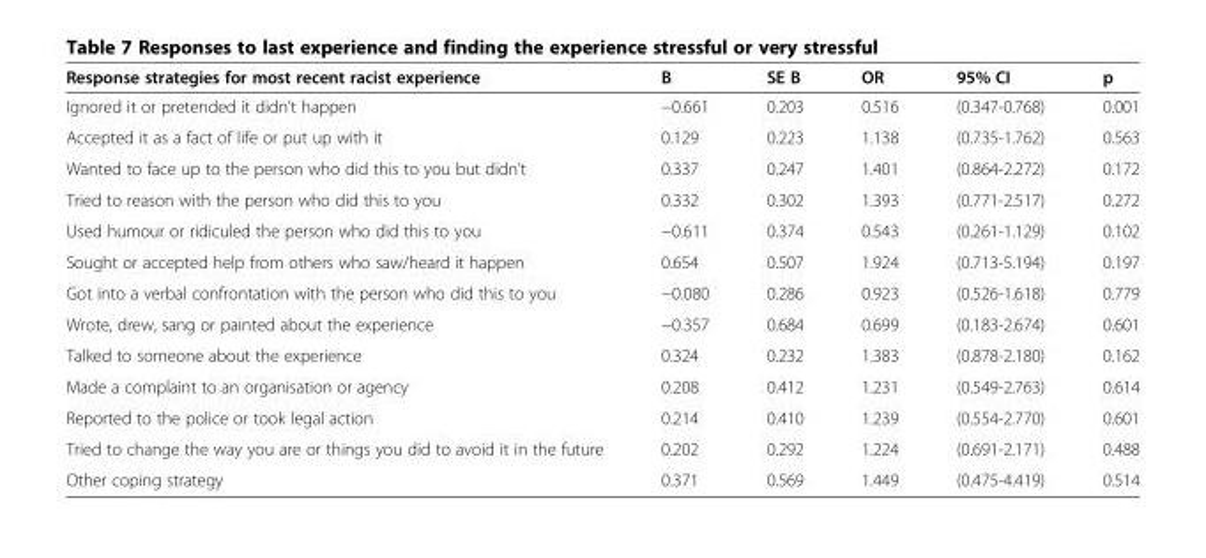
<table><thead><tr><td>Response strategies for most recent racist experience</td><td>B</td><td>SE B</td><td>OR</td><td>95% CI</td><td>p</td></tr></thead><tbody><tr><td>Ignored it or pretended it didn’t happen</td><td>−0.661</td><td>0.203</td><td>0.516</td><td>(0.347-0.768)</td><td>0.001</td></tr><tr><td>Accepted it as a fact of life or put up with it</td><td>0.129</td><td>0.223</td><td>1.138</td><td>(0.735-1.762)</td><td>0.563</td></tr><tr><td>Wanted to face up to the person who did this to you but didn’t</td><td>0.337</td><td>0.247</td><td>1.401</td><td>(0.864-2.272)</td><td>0.172</td></tr><tr><td>Tried to reason with the person who did this to you</td><td>0.332</td><td>0.302</td><td>1.393</td><td>(0.771-2.517)</td><td>0.272</td></tr><tr><td>Used humour or ridiculed the person who did this to you</td><td>−0.611</td><td>0.374</td><td>0.543</td><td>(0.261-1.129)</td><td>0.102</td></tr><tr><td>Sought or accepted help from others who saw/heard it happen</td><td>0.654</td><td>0.507</td><td>1.924</td><td>(0.713-5.194)</td><td>0.197</td></tr><tr><td>Got into a verbal confrontation with the person who did this to you</td><td>−0.080</td><td>0.286</td><td>0.923</td><td>(0.526-1.618)</td><td>0.779</td></tr><tr><td>Wrote, drew, sang or painted about the experience</td><td>−0.357</td><td>0.684</td><td>0.699</td><td>(0.183-2.674)</td><td>0.601</td></tr><tr><td>Talked to someone about the experience</td><td>0.324</td><td>0.232</td><td>1.383</td><td>(0.878-2.180)</td><td>0.162</td></tr><tr><td>Made a complaint to an organisation or agency</td><td>0.208</td><td>0.412</td><td>1.231</td><td>(0.549-2.763)</td><td>0.614</td></tr><tr><td>Reported to the police or took legal action</td><td>0.214</td><td>0.410</td><td>1.239</td><td>(0.554-2.770)</td><td>0.601</td></tr><tr><td>Tried to change the way you are or things you did to avoid it in the future</td><td>0.202</td><td>0.292</td><td>1.224</td><td>(0.691-2.171)</td><td>0.488</td></tr><tr><td>Other coping strategy</td><td>0.371</td><td>0.569</td><td>1.449</td><td>(0.475-4.419)</td><td>0.514</td></tr></tbody></table>